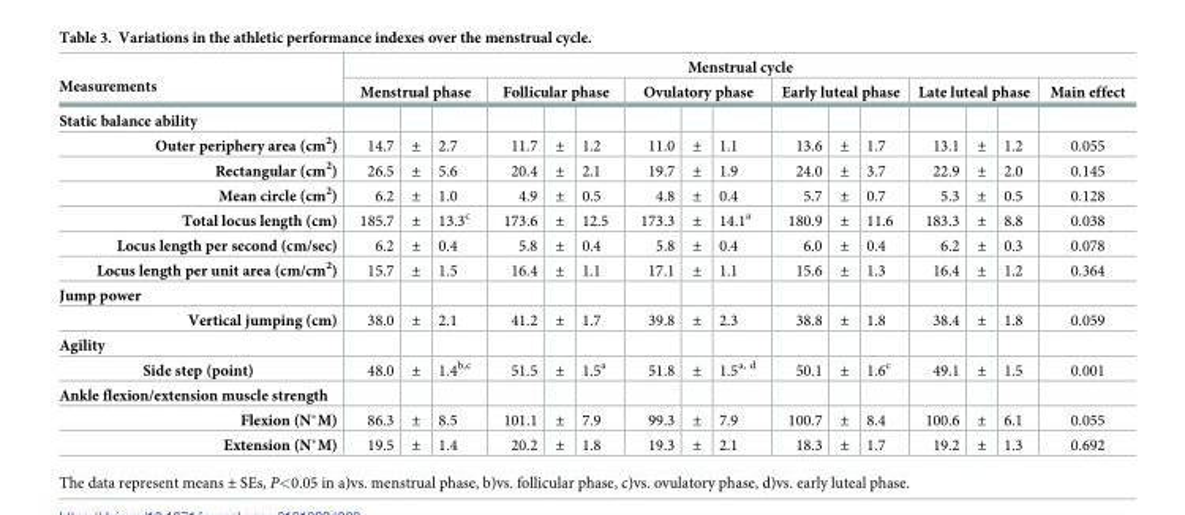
<table><thead><tr><td rowspan="3">Measurements Static balance ability</td><td colspan="16">Menstrual cycle</td></tr><tr><td colspan="3">Menstrual phase</td><td colspan="3">Follicular phase</td><td colspan="3">Ovulatory phase</td><td colspan="3">Early luteal phase</td><td colspan="3">Late luteal phase</td><td rowspan="2">Main effect</td></tr><tr><td></td><td></td><td></td><td></td><td></td><td></td><td></td><td></td><td></td><td></td><td></td><td></td><td></td><td></td><td></td></tr></thead><tbody><tr><td>Outer periphery area (cm<sup>2</sup>)</td><td>14.7</td><td>±</td><td>2.7</td><td>11.7</td><td>±</td><td>1.2</td><td>11.0</td><td>±</td><td>1.1</td><td>13.6</td><td>±</td><td>1.7</td><td>13.1</td><td>±</td><td>1.2</td><td>0.055</td></tr><tr><td>Rectangular (cm<sup>2</sup>)</td><td>26.5</td><td>±</td><td>5.6</td><td>20.4</td><td>±</td><td>2.1</td><td>19.7</td><td>±</td><td>1.9</td><td>24.0</td><td>±</td><td>3.7</td><td>22.9</td><td>±</td><td>2.0</td><td>0.145</td></tr><tr><td>Mean circle (cm<sup>2</sup>)</td><td>6.2</td><td>±</td><td>1.0</td><td>4.9</td><td>±</td><td>0.5</td><td>4.8</td><td>±</td><td>0.4</td><td>5.7</td><td>±</td><td>0.7</td><td>5.3</td><td>±</td><td>0.5</td><td>0.128</td></tr><tr><td>Total locus length (cm)</td><td>185.7</td><td>±</td><td>13.3<sup>c</sup></td><td>173.6</td><td>±</td><td>12.5</td><td>173.3</td><td>±</td><td>14.1<sup>a</sup></td><td>180.9</td><td>±</td><td>11.6</td><td>183.3</td><td>±</td><td>8.8</td><td>0.038</td></tr><tr><td>Locus length per second (cm/sec)</td><td>6.2</td><td>±</td><td>0.4</td><td>5.8</td><td>±</td><td>0.4</td><td>5.8</td><td>±</td><td>0.4</td><td>6.0</td><td>±</td><td>0.4</td><td>6.2</td><td>±</td><td>0.3</td><td>0.078</td></tr><tr><td>Locus length per unit area (cm/cm<sup>2</sup>)</td><td>15.7</td><td>±</td><td>1.5</td><td>16.4</td><td>±</td><td>1.1</td><td>17.1</td><td>±</td><td>1.1</td><td>15.6</td><td>±</td><td>1.3</td><td>16.4</td><td>±</td><td>1.2</td><td>0.364</td></tr><tr><td colspan="17">Jump power</td></tr><tr><td>Vertical jumping (cm)</td><td>38.0</td><td>±</td><td>2.1</td><td>41.2</td><td>±</td><td>1.7</td><td>39.8</td><td>±</td><td>2.3</td><td>38.8</td><td>±</td><td>1.8</td><td>38.4</td><td>±</td><td>1.8</td><td>0.059</td></tr><tr><td colspan="17">Agility</td></tr><tr><td>Side step (point)</td><td>48.0</td><td>±</td><td>1.4<sup>b,c</sup></td><td>51.5</td><td>±</td><td>1.5<sup>a</sup></td><td>51.8</td><td>±</td><td>1.5<sup>a, d</sup></td><td>50.1</td><td>±</td><td>1.6<sup>c</sup></td><td>49.1</td><td>±</td><td>1.5</td><td>0.001</td></tr><tr><td colspan="17">Ankle flexion/extension muscle strength</td></tr><tr><td>Flexion (N*M)</td><td>86.3</td><td>±</td><td>8.5</td><td>101.1</td><td>±</td><td>7.9</td><td>99.3</td><td>±</td><td>7.9</td><td>100.7</td><td>±</td><td>8.4</td><td>100.6</td><td>±</td><td>6.1</td><td>0.055</td></tr><tr><td>Extension (N*M)</td><td>19.5</td><td>±</td><td>1.4</td><td>20.2</td><td>±</td><td>1.8</td><td>19.3</td><td>±</td><td>2.1</td><td>18.3</td><td>±</td><td>1.7</td><td>19.2</td><td>±</td><td>1.3</td><td>0.692</td></tr></tbody></table>